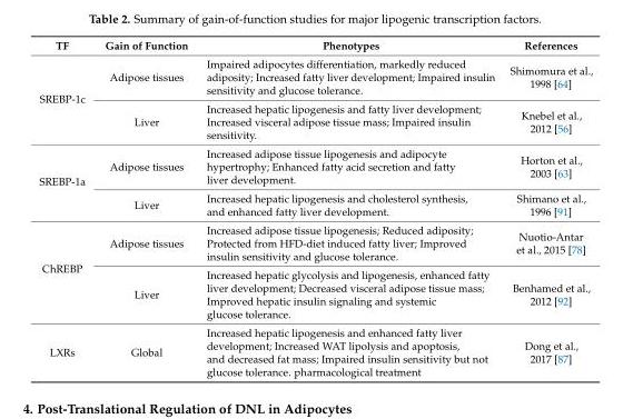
<table><thead><tr><td>TF</td><td>Gain of Function</td><td>Phenotypes</td><td>References</td></tr></thead><tbody><tr><td rowspan="2">SREBP-1c</td><td>Adipose tissues</td><td>Impaired adipocytes differentiation, markedly reduced adiposity; Increased fatty liver development; Impaired insulin sensitivity and glucose tolerance.</td><td>Shimomura et al., 1998 [64]</td></tr><tr><td>Liver</td><td>Increased hepatic lipogenesis and fatty liver development; Increased visceral adipose tissue mass; Impaired insulin sensitivity.</td><td>Knebel et al., 2012 [56]</td></tr><tr><td rowspan="2">SREBP-1a</td><td>Adipose tissues</td><td>Increased adipose tissue lipogenesis and adipocyte hypertrophy; Enhanced fatty acid secretion and fatty liver development.</td><td>Horton et al., 2003 [63]</td></tr><tr><td>Liver</td><td>Increased hepatic lipogenesis and cholesterol synthesis, and enhanced fatty liver development.</td><td>Shimano et al., 1996 [91]</td></tr><tr><td rowspan="2">ChREBP</td><td>Adipose tissues</td><td>Increased adipose tissue lipogenesis; Reduced adiposity; Protected from HFD-diet induced fatty liver; Improved insulin sensitivity and glucose tolerance.</td><td>Nuotio-Antar et al., 2015 [78]</td></tr><tr><td>Liver</td><td>Increased hepatic glycolysis and lipogenesis, enhanced fatty liver development; Decreased visceral adipose tissue mass; Improved hepatic insulin signaling and systemic glucose tolerance.</td><td>Benhamed et al., 2012 [92]</td></tr><tr><td>LXRs</td><td>Global</td><td>Increased hepatic lipogenesis and enhanced fatty liver development; Increased WAT lipolysis and apoptosis, and decreased fat mass; Impaired insulin sensitivity but not glucose tolerance. pharmacological treatment</td><td>Dong et al., 2017 [87]</td></tr></tbody></table>